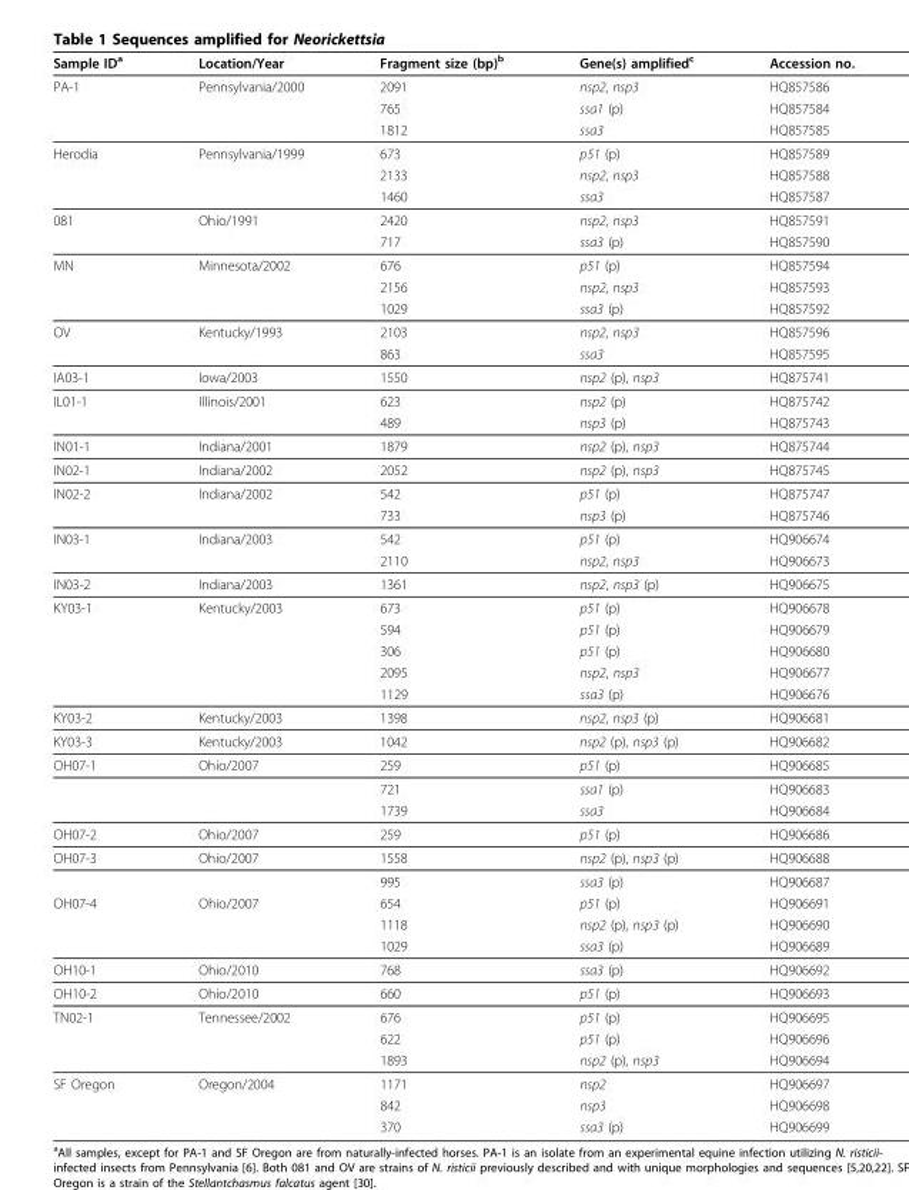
<table><thead><tr><td>Sample ID<sup>a</sup></td><td>Location/Year</td><td>Fragment size (bp)<sup>b</sup></td><td>Gene(s) amplified<sup>c</sup></td><td>Accession no.</td></tr></thead><tbody><tr><td rowspan="3">PA-1</td><td>Pennsylvania/2000</td><td>2091</td><td>nsp2, nsp3</td><td>HQ857586</td></tr><tr><td></td><td>765</td><td>ssa1 (p)</td><td>HQ857584</td></tr><tr><td></td><td>1812</td><td>ssa3</td><td>HQ857585</td></tr><tr><td rowspan="3">Herodia</td><td>Pennsylvania/1999</td><td>673</td><td>p51 (p)</td><td>HQ857589</td></tr><tr><td></td><td>2133</td><td>nsp2, nsp3</td><td>HQ857588</td></tr><tr><td></td><td>1460</td><td>ssa3</td><td>HQ857587</td></tr><tr><td rowspan="2">081</td><td>Ohio/1991</td><td>2420</td><td>nsp2, nsp3</td><td>HQ857591</td></tr><tr><td></td><td>717</td><td>ssa3 (p)</td><td>HQ857590</td></tr><tr><td rowspan="3">MN</td><td>Minnesota/2002</td><td>676</td><td>p51 (p)</td><td>HQ857594</td></tr><tr><td></td><td>2156</td><td>nsp2, nsp3</td><td>HQ857593</td></tr><tr><td></td><td>1029</td><td>ssa3 (p)</td><td>HQ857592</td></tr><tr><td rowspan="2">OV</td><td>Kentucky/1993</td><td>2103</td><td>nsp2, nsp3</td><td>HQ857596</td></tr><tr><td></td><td>863</td><td>ssa3</td><td>HQ857595</td></tr><tr><td>IA03-1</td><td>Iowa/2003</td><td>1550</td><td>nsp2 (p), nsp3</td><td>HQ875741</td></tr><tr><td rowspan="2">IL01-1</td><td>Illinois/2001</td><td>623</td><td>nsp2 (p)</td><td>HQ875742</td></tr><tr><td></td><td>489</td><td>nsp3 (p)</td><td>HQ875743</td></tr><tr><td>IN01-1</td><td>Indiana/2001</td><td>1879</td><td>nsp2 (p), nsp3</td><td>HQ875744</td></tr><tr><td>IN02-1</td><td>Indiana/2002</td><td>2052</td><td>nsp2 (p), nsp3</td><td>HQ875745</td></tr><tr><td rowspan="2">IN02-2</td><td>Indiana/2002</td><td>542</td><td>p51 (p)</td><td>HQ875747</td></tr><tr><td></td><td>733</td><td>nsp3 (p)</td><td>HQ875746</td></tr><tr><td rowspan="2">IN03-1</td><td>Indiana/2003</td><td>542</td><td>p51 (p)</td><td>HQ906674</td></tr><tr><td></td><td>2110</td><td>nsp2, nsp3</td><td>HQ906673</td></tr><tr><td>IN03-2</td><td>Indiana/2003</td><td>1361</td><td>nsp2, nsp3 (p)</td><td>HQ906675</td></tr><tr><td rowspan="5">KY03-1</td><td>Kentucky/2003</td><td>673</td><td>p51 (p)</td><td>HQ906678</td></tr><tr><td></td><td>594</td><td>p51 (p)</td><td>HQ906679</td></tr><tr><td></td><td>306</td><td>p51 (p)</td><td>HQ906680</td></tr><tr><td></td><td>2095</td><td>nsp2, nsp3</td><td>HQ906677</td></tr><tr><td></td><td>1129</td><td>ssa3 (p)</td><td>HQ906676</td></tr><tr><td>KY03-2</td><td>Kentucky/2003</td><td>1398</td><td>nsp2, nsp3 (p)</td><td>HQ906681</td></tr><tr><td>KY03-3</td><td>Kentucky/2003</td><td>1042</td><td>nsp2 (p), nsp3 (p)</td><td>HQ906682</td></tr><tr><td rowspan="3">OH07-1</td><td>Ohio/2007</td><td>259</td><td>p51 (p)</td><td>HQ906685</td></tr><tr><td></td><td>721</td><td>ssa1 (p)</td><td>HQ906683</td></tr><tr><td></td><td>1739</td><td>ssa3</td><td>HQ906684</td></tr><tr><td>OH07-2</td><td>Ohio/2007</td><td>259</td><td>p51 (p)</td><td>HQ906686</td></tr><tr><td rowspan="2">OH07-3</td><td>Ohio/2007</td><td>1558</td><td>nsp2 (p), nsp3 (p)</td><td>HQ906688</td></tr><tr><td></td><td>995</td><td>ssa3 (p)</td><td>HQ906687</td></tr><tr><td rowspan="3">OH07-4</td><td>Ohio/2007</td><td>654</td><td>p51 (p)</td><td>HQ906691</td></tr><tr><td></td><td>1118</td><td>nsp2 (p), nsp3 (p)</td><td>HQ906690</td></tr><tr><td></td><td>1029</td><td>ssa3 (p)</td><td>HQ906689</td></tr><tr><td>OH10-1</td><td>Ohio/2010</td><td>768</td><td>ssa3 (p)</td><td>HQ906692</td></tr><tr><td>OH10-2</td><td>Ohio/2010</td><td>660</td><td>p51 (p)</td><td>HQ906693</td></tr><tr><td rowspan="3">TN02-1</td><td>Tennessee/2002</td><td>676</td><td>p51 (p)</td><td>HQ906695</td></tr><tr><td></td><td>622</td><td>p51 (p)</td><td>HQ906696</td></tr><tr><td></td><td>1893</td><td>nsp2 (p), nsp3</td><td>HQ906694</td></tr><tr><td rowspan="3">SF Oregon</td><td>Oregon/2004</td><td>1171</td><td>nsp2</td><td>HQ906697</td></tr><tr><td></td><td>842</td><td>nsp3</td><td>HQ906698</td></tr><tr><td></td><td>370</td><td>ssa3 (p)</td><td>HQ906699</td></tr></tbody></table>